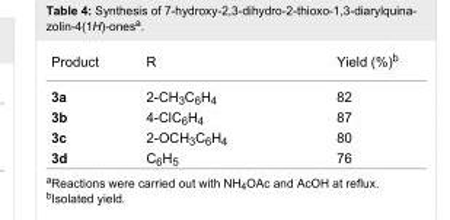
<table><tbody><tr><td>Product</td><td>R</td><td>Yield (%)<sup>b</sup></td></tr><tr><td>3a</td><td>2-CH<sub>3</sub>C<sub>6</sub>H<sub>4</sub></td><td>82</td></tr><tr><td>3b</td><td>4-ClC<sub>6</sub>H<sub>4</sub></td><td>87</td></tr><tr><td>3c</td><td>2-OCH<sub>3</sub>C<sub>6</sub>H<sub>4</sub></td><td>80</td></tr><tr><td>3d</td><td>C<sub>6</sub>H<sub>5</sub></td><td>76</td></tr></tbody></table>